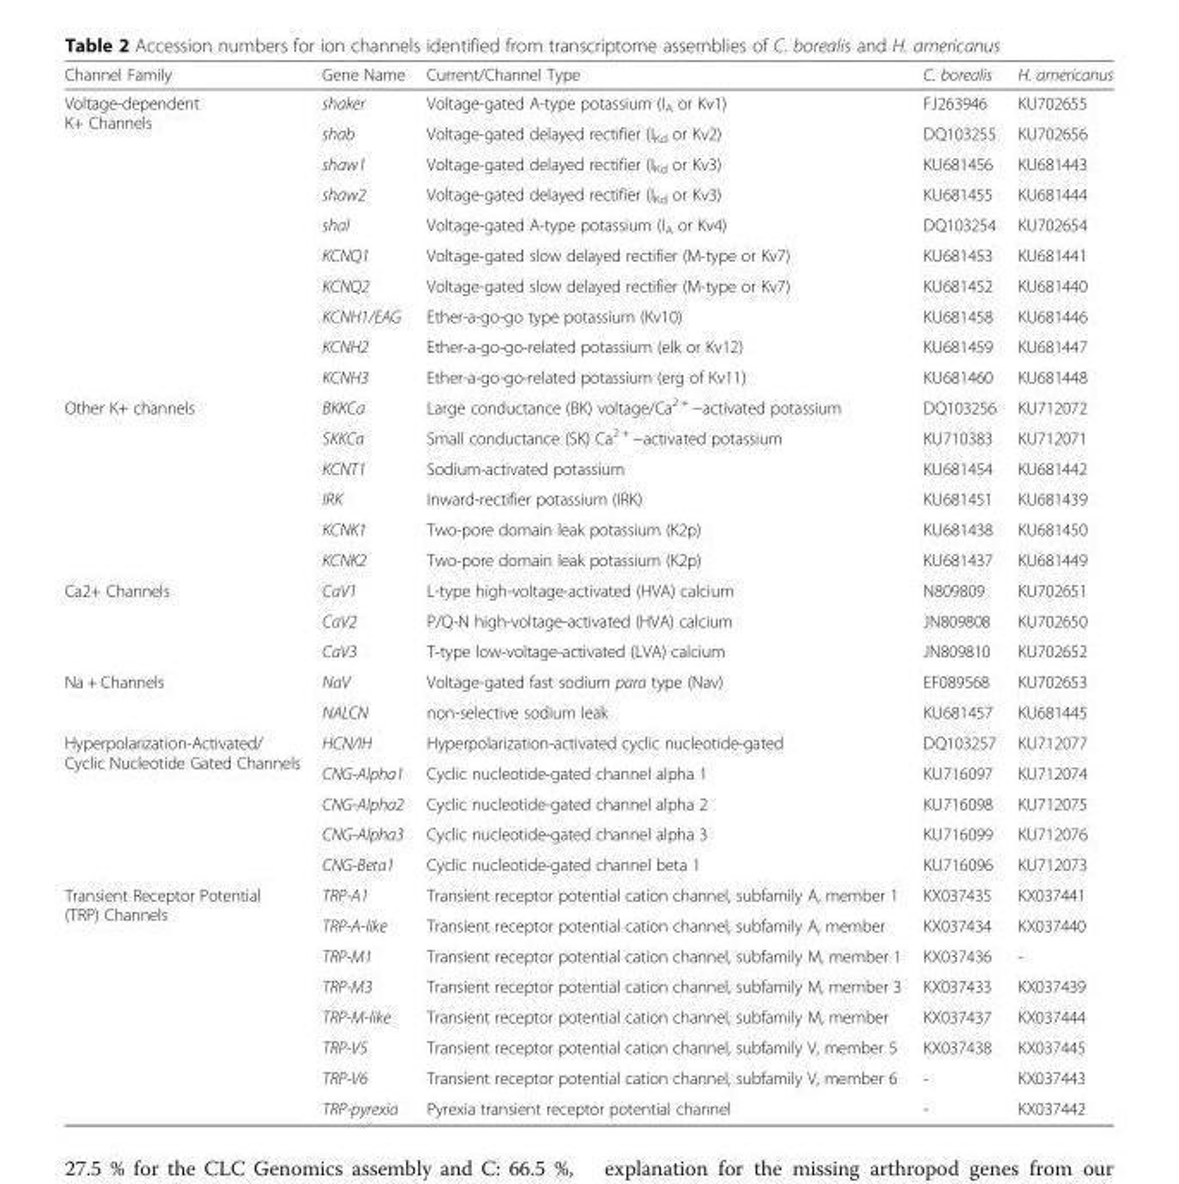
<table><thead><tr><td>Channel Family</td><td>Gene Name</td><td>Current/Channel Type</td><td>C. borealis</td><td>H. americanus</td></tr></thead><tbody><tr><td rowspan="10">Voltage-dependent K+ Channels</td><td>shaker</td><td>Voltage-gated A-type potassium (I<sub>A</sub> or Kv1)</td><td>FJ263946</td><td>KU702655</td></tr><tr><td>shab</td><td>Voltage-gated delayed rectifier (I<sub>Kd</sub> or Kv2)</td><td>DQ103255</td><td>KU702656</td></tr><tr><td>shaw1</td><td>Voltage-gated delayed rectifier (I<sub>Kd</sub> or Kv3)</td><td>KU681456</td><td>KU681443</td></tr><tr><td>shaw2</td><td>Voltage-gated delayed rectifier (I<sub>Kd</sub> or Kv3)</td><td>KU681455</td><td>KU681444</td></tr><tr><td>shal</td><td>Voltage-gated A-type potassium (I<sub>A</sub> or Kv4)</td><td>DQ103254</td><td>KU702654</td></tr><tr><td>KCNQ1</td><td>Voltage-gated slow delayed rectifier (M-type or Kv7)</td><td>KU681453</td><td>KU681441</td></tr><tr><td>KCNQ2</td><td>Voltage-gated slow delayed rectifier (M-type or Kv7)</td><td>KU681452</td><td>KU681440</td></tr><tr><td>KCNH1/EAG</td><td>Ether-a-go-go type potassium (Kv10)</td><td>KU681458</td><td>KU681446</td></tr><tr><td>KCNH2</td><td>Ether-a-go-go-related potassium (elk or Kv12)</td><td>KU681459</td><td>KU681447</td></tr><tr><td>KCNH3</td><td>Ether-a-go-go-related potassium (erg of Kv11)</td><td>KU681460</td><td>KU681448</td></tr><tr><td rowspan="6">Other K+ channels</td><td>BKKCa</td><td>Large conductance (BK) voltage/Ca<sup>2 +</sup> −activated potassium</td><td>DQ103256</td><td>KU712072</td></tr><tr><td>SKKCa</td><td>Small conductance (SK) Ca<sup>2 +</sup> −activated potassium</td><td>KU710383</td><td>KU712071</td></tr><tr><td>KCNT1</td><td>Sodium-activated potassium</td><td>KU681454</td><td>KU681442</td></tr><tr><td>IRK</td><td>Inward-rectifier potassium (IRK)</td><td>KU681451</td><td>KU681439</td></tr><tr><td>KCNK1</td><td>Two-pore domain leak potassium (K2p)</td><td>KU681438</td><td>KU681450</td></tr><tr><td>KCNK2</td><td>Two-pore domain leak potassium (K2p)</td><td>KU681437</td><td>KU681449</td></tr><tr><td rowspan="3">Ca2+ Channels</td><td>CaV1</td><td>L-type high-voltage-activated (HVA) calcium</td><td>N809809</td><td>KU702651</td></tr><tr><td>CaV2</td><td>P/Q-N high-voltage-activated (HVA) calcium</td><td>JN809808</td><td>KU702650</td></tr><tr><td>CaV3</td><td>T-type low-voltage-activated (LVA) calcium</td><td>JN809810</td><td>KU702652</td></tr><tr><td rowspan="2">Na + Channels</td><td>NaV</td><td>Voltage-gated fast sodium para type (Nav)</td><td>EF089568</td><td>KU702653</td></tr><tr><td>NALCN</td><td>non-selective sodium leak</td><td>KU681457</td><td>KU681445</td></tr><tr><td rowspan="5">Hyperpolarization-Activated/ Cyclic Nucleotide Gated Channels</td><td>HCN/IH</td><td>Hyperpolarization-activated cyclic nucleotide-gated</td><td>DQ103257</td><td>KU712077</td></tr><tr><td>CNG-Alpha1</td><td>Cyclic nucleotide-gated channel alpha 1</td><td>KU716097</td><td>KU712074</td></tr><tr><td>CNG-Alpha2</td><td>Cyclic nucleotide-gated channel alpha 2</td><td>KU716098</td><td>KU712075</td></tr><tr><td>CNG-Alpha3</td><td>Cyclic nucleotide-gated channel alpha 3</td><td>KU716099</td><td>KU712076</td></tr><tr><td>CNG-Beta1</td><td>Cyclic nucleotide-gated channel beta 1</td><td>KU716096</td><td>KU712073</td></tr><tr><td rowspan="8">Transient Receptor Potential (TRP) Channels</td><td>TRP-A1</td><td>Transient receptor potential cation channel, subfamily A, member 1</td><td>KX037435</td><td>KX037441</td></tr><tr><td>TRP-A-like</td><td>Transient receptor potential cation channel, subfamily A, member</td><td>KX037434</td><td>KX037440</td></tr><tr><td>TRP-M1</td><td>Transient receptor potential cation channel, subfamily M, member 1</td><td>KX037436</td><td>-</td></tr><tr><td>TRP-M3</td><td>Transient receptor potential cation channel, subfamily M, member 3</td><td>KX037433</td><td>KX037439</td></tr><tr><td>TRP-M-like</td><td>Transient receptor potential cation channel, subfamily M, member</td><td>KX037437</td><td>KX037444</td></tr><tr><td>TRP-V5</td><td>Transient receptor potential cation channel, subfamily V, member 5</td><td>KX037438</td><td>KX037445</td></tr><tr><td>TRP-V6</td><td>Transient receptor potential cation channel, subfamily V, member 6</td><td>-</td><td>KX037443</td></tr><tr><td>TRP-pyrexia</td><td>Pyrexia transient receptor potential channel</td><td>-</td><td>KX037442</td></tr></tbody></table>